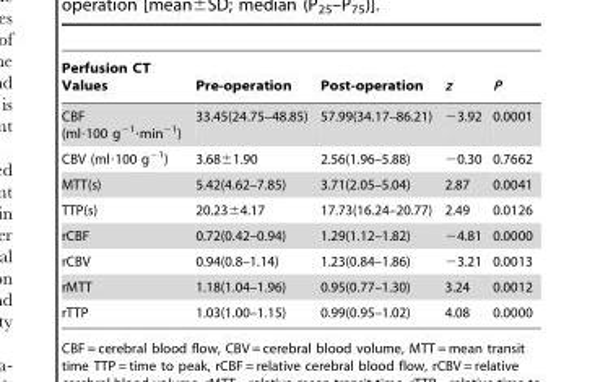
<table><thead><tr><td>Perfusion CT Values</td><td>Pre-operation</td><td>Post-operation</td><td>z</td><td>P</td></tr></thead><tbody><tr><td>CBF (ml·100 g<sup>−1</sup>·min<sup>−1</sup>)</td><td>33.45(24.75–48.85)</td><td>57.99(34.17–86.21)</td><td>−3.92</td><td>0.0001</td></tr><tr><td>CBV (ml·100 g<sup>−1</sup>)</td><td>3.68±1.90</td><td>2.56(1.96–5.88)</td><td>−0.30</td><td>0.7662</td></tr><tr><td>MTT(s)</td><td>5.42(4.62–7.85)</td><td>3.71(2.05–5.04)</td><td>2.87</td><td>0.0041</td></tr><tr><td>TTP(s)</td><td>20.23±4.17</td><td>17.73(16.24–20.77)</td><td>2.49</td><td>0.0126</td></tr><tr><td>rCBF</td><td>0.72(0.42–0.94)</td><td>1.29(1.12–1.82)</td><td>−4.81</td><td>0.0000</td></tr><tr><td>rCBV</td><td>0.94(0.8–1.14)</td><td>1.23(0.84–1.86)</td><td>−3.21</td><td>0.0013</td></tr><tr><td>rMTT</td><td>1.18(1.04–1.96)</td><td>0.95(0.77–1.30)</td><td>3.24</td><td>0.0012</td></tr><tr><td>rTTP</td><td>1.03(1.00–1.15)</td><td>0.99(0.95–1.02)</td><td>4.08</td><td>0.0000</td></tr></tbody></table>